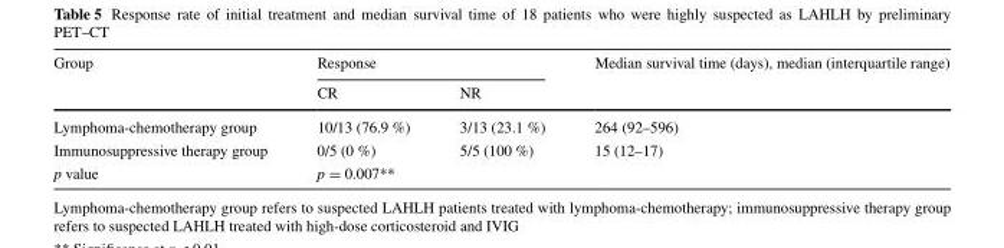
<table><thead><tr><td rowspan="2">Group</td><td colspan="2">Response</td><td rowspan="2">Median survival time (days), median (interquartile range)</td></tr><tr><td>CR</td><td>NR</td></tr></thead><tbody><tr><td>Lymphoma-chemotherapy group</td><td>10/13 (76.9 %)</td><td>3/13 (23.1 %)</td><td>264 (92–596)</td></tr><tr><td>Immunosuppressive therapy group</td><td>0/5 (0 %)</td><td>5/5 (100 %)</td><td>15 (12–17)</td></tr><tr><td>p value</td><td>p = 0.007**</td><td></td><td></td></tr></tbody></table>